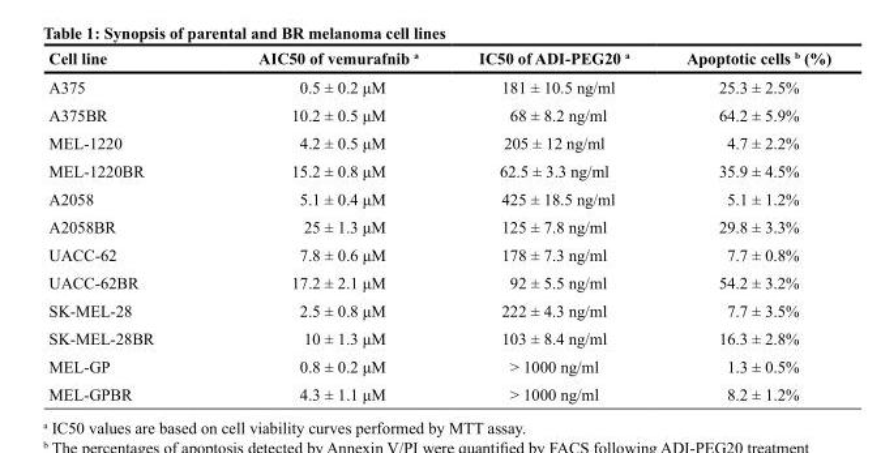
<table><thead><tr><td>Cell line</td><td>AIC50 of vemurafnib <sup>a</sup></td><td>IC50 of ADI-PEG20 <sup>a</sup></td><td>Apoptotic cells <sup>b</sup> (%)</td></tr></thead><tbody><tr><td>A375</td><td>0.5 ± 0.2 μM</td><td>181 ± 10.5 ng/ml</td><td>25.3 ± 2.5%</td></tr><tr><td>A375BR</td><td>10.2 ± 0.5 μM</td><td>68 ± 8.2 ng/ml</td><td>64.2 ± 5.9%</td></tr><tr><td>MEL-1220</td><td>4.2 ± 0.5 μM</td><td>205 ± 12 ng/ml</td><td>4.7 ± 2.2%</td></tr><tr><td>MEL-1220BR</td><td>15.2 ± 0.8 μM</td><td>62.5 ± 3.3 ng/ml</td><td>35.9 ± 4.5%</td></tr><tr><td>A2058</td><td>5.1 ± 0.4 μM</td><td>425 ± 18.5 ng/ml</td><td>5.1 ± 1.2%</td></tr><tr><td>A2058BR</td><td>25 ± 1.3 μM</td><td>125 ± 7.8 ng/ml</td><td>29.8 ± 3.3%</td></tr><tr><td>UACC-62</td><td>7.8 ± 0.6 μM</td><td>178 ± 7.3 ng/ml</td><td>7.7 ± 0.8%</td></tr><tr><td>UACC-62BR</td><td>17.2 ± 2.1 μM</td><td>92 ± 5.5 ng/ml</td><td>54.2 ± 3.2%</td></tr><tr><td>SK-MEL-28</td><td>2.5 ± 0.8 μM</td><td>222 ± 4.3 ng/ml</td><td>7.7 ± 3.5%</td></tr><tr><td>SK-MEL-28BR</td><td>10 ± 1.3 μM</td><td>103 ± 8.4 ng/ml</td><td>16.3 ± 2.8%</td></tr><tr><td>MEL-GP</td><td>0.8 ± 0.2 μM</td><td>&gt; 1000 ng/ml</td><td>1.3 ± 0.5%</td></tr><tr><td>MEL-GPBR</td><td>4.3 ± 1.1 μM</td><td>&gt; 1000 ng/ml</td><td>8.2 ± 1.2%</td></tr></tbody></table>